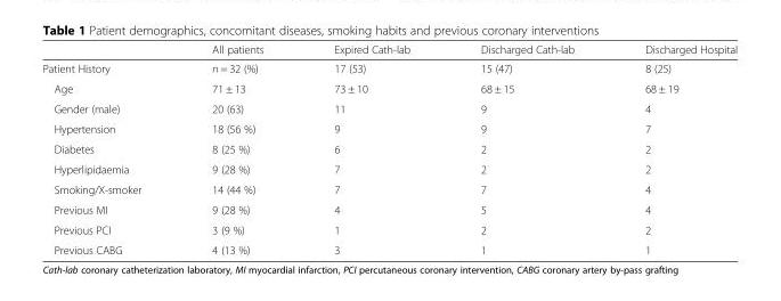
<table><thead><tr><td></td><td>All patients</td><td>Expired Cath-lab</td><td>Discharged Cath-lab</td><td>Discharged Hospital</td></tr></thead><tbody><tr><td>Patient History</td><td>n = 32 (%)</td><td>17 (53)</td><td>15 (47)</td><td>8 (25)</td></tr><tr><td>Age</td><td>71 ± 13</td><td>73 ± 10</td><td>68 ± 15</td><td>68 ± 19</td></tr><tr><td>Gender (male)</td><td>20 (63)</td><td>11</td><td>9</td><td>4</td></tr><tr><td>Hypertension</td><td>18 (56 %)</td><td>9</td><td>9</td><td>7</td></tr><tr><td>Diabetes</td><td>8 (25 %)</td><td>6</td><td>2</td><td>2</td></tr><tr><td>Hyperlipidaemia</td><td>9 (28 %)</td><td>7</td><td>2</td><td>2</td></tr><tr><td>Smoking/X-smoker</td><td>14 (44 %)</td><td>7</td><td>7</td><td>4</td></tr><tr><td>Previous MI</td><td>9 (28 %)</td><td>4</td><td>5</td><td>4</td></tr><tr><td>Previous PCI</td><td>3 (9 %)</td><td>1</td><td>2</td><td>2</td></tr><tr><td>Previous CABG</td><td>4 (13 %)</td><td>3</td><td>1</td><td>1</td></tr></tbody></table>